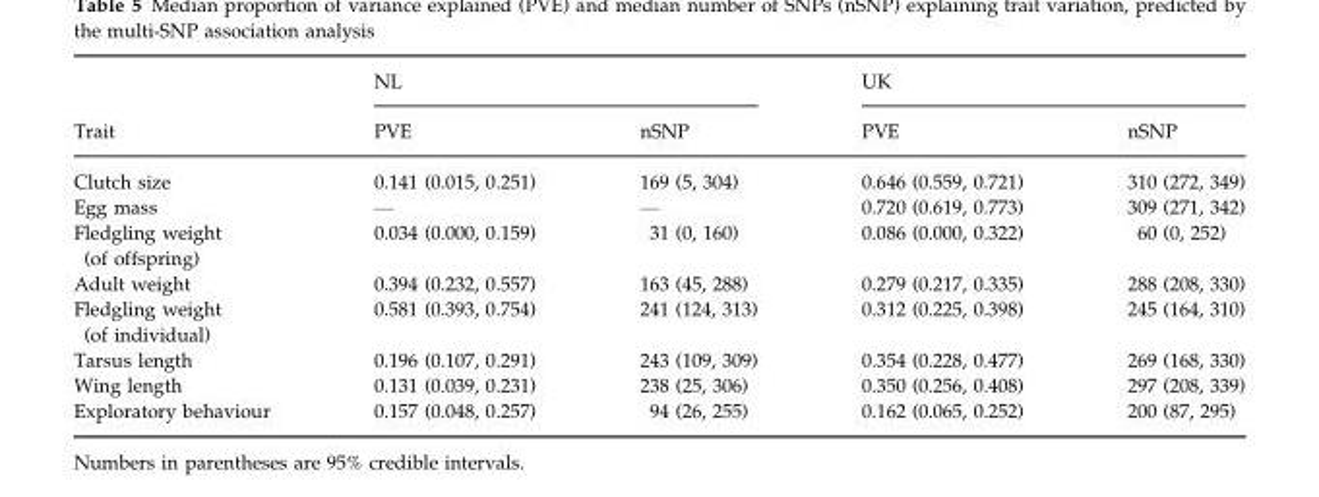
<table><thead><tr><td rowspan="2">Trait</td><td colspan="2">NL</td><td colspan="2">UK</td></tr><tr><td>PVE</td><td>nSNP</td><td>PVE</td><td>nSNP</td></tr></thead><tbody><tr><td>Clutch size</td><td>0.141 (0.015, 0.251)</td><td>169 (5, 304)</td><td>0.646 (0.559, 0.721)</td><td>310 (272, 349)</td></tr><tr><td>Egg mass</td><td>—</td><td>—</td><td>0.720 (0.619, 0.773)</td><td>309 (271, 342)</td></tr><tr><td>Fledgling weight (of offspring)</td><td>0.034 (0.000, 0.159)</td><td>31 (0, 160)</td><td>0.086 (0.000, 0.322)</td><td>60 (0, 252)</td></tr><tr><td>Adult weight</td><td>0.394 (0.232, 0.557)</td><td>163 (45, 288)</td><td>0.279 (0.217, 0.335)</td><td>288 (208, 330)</td></tr><tr><td>Fledgling weight (of individual)</td><td>0.581 (0.393, 0.754)</td><td>241 (124, 313)</td><td>0.312 (0.225, 0.398)</td><td>245 (164, 310)</td></tr><tr><td>Tarsus length</td><td>0.196 (0.107, 0.291)</td><td>243 (109, 309)</td><td>0.354 (0.228, 0.477)</td><td>269 (168, 330)</td></tr><tr><td>Wing length</td><td>0.131 (0.039, 0.231)</td><td>238 (25, 306)</td><td>0.350 (0.256, 0.408)</td><td>297 (208, 339)</td></tr><tr><td>Exploratory behaviour</td><td>0.157 (0.048, 0.257)</td><td>94 (26, 255)</td><td>0.162 (0.065, 0.252)</td><td>200 (87, 295)</td></tr></tbody></table>